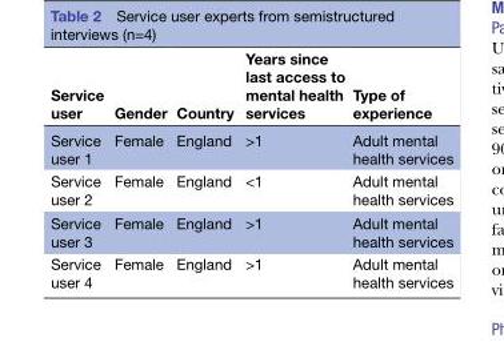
<table><thead><tr><td>Service user</td><td>Gender</td><td>Country</td><td>Years since last access to mental health services</td><td>Type of experience</td></tr></thead><tbody><tr><td>Service user 1</td><td>Female</td><td>England</td><td>&gt;1</td><td>Adult mental health services</td></tr><tr><td>Service user 2</td><td>Female</td><td>England</td><td>&lt;1</td><td>Adult mental health services</td></tr><tr><td>Service user 3</td><td>Female</td><td>England</td><td>&gt;1</td><td>Adult mental health services</td></tr><tr><td>Service user 4</td><td>Female</td><td>England</td><td>&gt;1</td><td>Adult mental health services</td></tr></tbody></table>